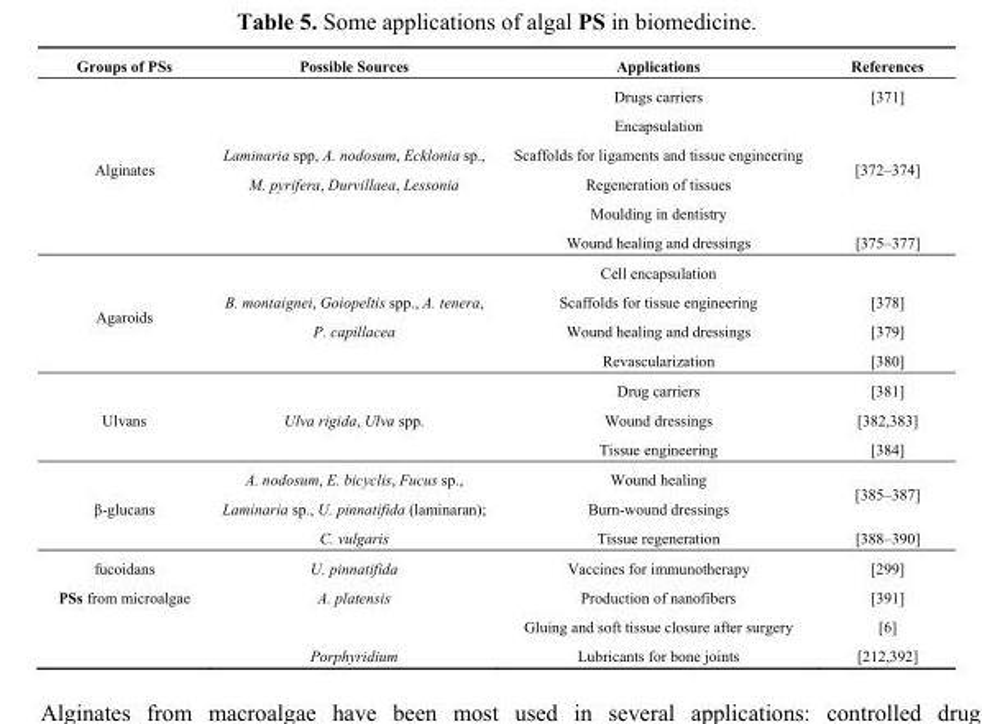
<table><thead><tr><td>Groups of PSs</td><td>Possible Sources</td><td>Applications</td><td>References</td></tr></thead><tbody><tr><td rowspan="6">Alginates</td><td rowspan="6">Laminaria spp, A. nodosum, Ecklonia sp., M. pyrifera, Durvillaea, Lessonia</td><td>Drugs carriers</td><td>[371]</td></tr><tr><td>Encapsulation</td><td rowspan="4">[372–374]</td></tr><tr><td>Scaffolds for ligaments and tissue engineering</td></tr><tr><td>Regeneration of tissues</td></tr><tr><td>Moulding in dentistry</td></tr><tr><td>Wound healing and dressings</td><td>[375–377]</td></tr><tr><td rowspan="4">Agaroids</td><td rowspan="4">B. montaignei, Goiopeltis spp., A. tenera, P. capillacea</td><td>Cell encapsulation</td><td></td></tr><tr><td>Scaffolds for tissue engineering</td><td>[378]</td></tr><tr><td>Wound healing and dressings</td><td>[379]</td></tr><tr><td>Revascularization</td><td>[380]</td></tr><tr><td rowspan="3">Ulvans</td><td rowspan="3">Ulva rigida, Ulva spp.</td><td>Drug carriers</td><td>[381]</td></tr><tr><td>Wound dressings</td><td>[382,383]</td></tr><tr><td>Tissue engineering</td><td>[384]</td></tr><tr><td rowspan="3">β-glucans</td><td rowspan="3">A. nodosum, E. bicyclis, Fucus sp., Laminaria sp., U. pinnatifida (laminaran); C. vulgaris</td><td>Wound healing</td><td rowspan="2">[385–387]</td></tr><tr><td>Burn-wound dressings</td></tr><tr><td>Tissue regeneration</td><td>[388–390]</td></tr><tr><td>fucoidans</td><td>U. pinnatifida</td><td>Vaccines for immunotherapy</td><td>[299]</td></tr><tr><td rowspan="3">PSs from microalgae</td><td>A. platensis</td><td>Production of nanofibers</td><td>[391]</td></tr><tr><td></td><td>Gluing and soft tissue closure after surgery</td><td>[6]</td></tr><tr><td>Porphyridium</td><td>Lubricants for bone joints</td><td>[212,392]</td></tr></tbody></table>